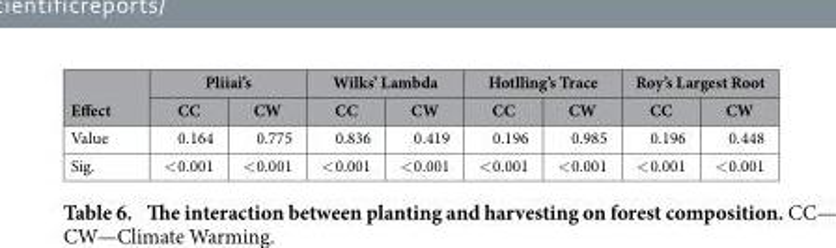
<table><thead><tr><td rowspan="2">Effect</td><td colspan="2">Pliiai’s</td><td colspan="2">Wilks’ Lambda</td><td colspan="2">Hotlling’s Trace</td><td colspan="2">Roy’s Largest Root</td></tr><tr><td>CC</td><td>CW</td><td>CC</td><td>CW</td><td>CC</td><td>CW</td><td>CC</td><td>CW</td></tr></thead><tbody><tr><td>Value</td><td>0.164</td><td>0.775</td><td>0.836</td><td>0.419</td><td>0.196</td><td>0.985</td><td>0.196</td><td>0.448</td></tr><tr><td>Sig.</td><td>&lt; 0.001</td><td>&lt; 0.001</td><td>&lt; 0.001</td><td>&lt; 0.001</td><td>&lt; 0.001</td><td>&lt; 0.001</td><td>&lt; 0.001</td><td>&lt; 0.001</td></tr></tbody></table>